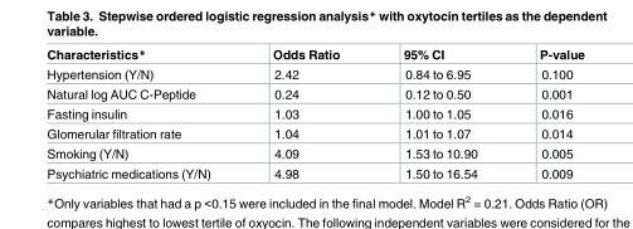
<table><thead><tr><td>Characteristics*</td><td>Odds Ratio</td><td>95% CI</td><td>P-value</td></tr></thead><tbody><tr><td>Hypertension (Y/N)</td><td>2.42</td><td>0.84 to 6.95</td><td>0.100</td></tr><tr><td>Natural log AUC C-Peptide</td><td>0.24</td><td>0.12 to 0.50</td><td>0.001</td></tr><tr><td>Fasting insulin</td><td>1.03</td><td>1.00 to 1.05</td><td>0.016</td></tr><tr><td>Glomerular filtration rate</td><td>1.04</td><td>1.01 to 1.07</td><td>0.014</td></tr><tr><td>Smoking (Y/N)</td><td>4.09</td><td>1.53 to 10.90</td><td>0.005</td></tr><tr><td>Psychiatric medications (Y/N)</td><td>4.98</td><td>1.50 to 16.54</td><td>0.009</td></tr></tbody></table>